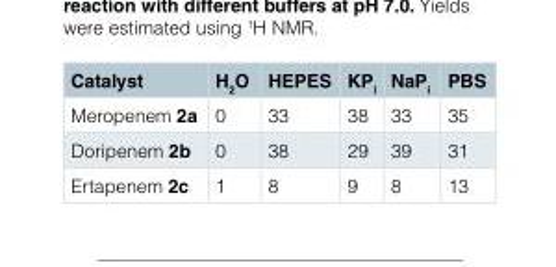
<table><thead><tr><td>Catalyst</td><td>H<sub>2</sub>O</td><td>HEPES</td><td>KP<sub>i</sub></td><td>NaP<sub>i</sub></td><td>PBS</td></tr></thead><tbody><tr><td>Meropenem 2a</td><td>0</td><td>33</td><td>38</td><td>33</td><td>35</td></tr><tr><td>Doripenem 2b</td><td>0</td><td>38</td><td>29</td><td>39</td><td>31</td></tr><tr><td>Ertapenem 2c</td><td>1</td><td>8</td><td>9</td><td>8</td><td>13</td></tr></tbody></table>